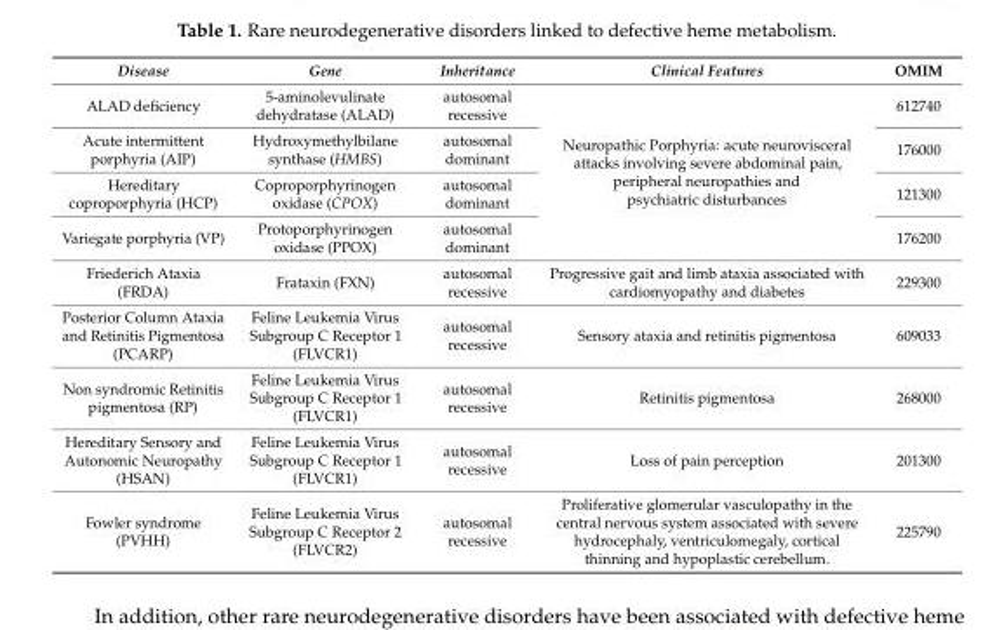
<table><thead><tr><td>Disease</td><td>Gene</td><td>Inheritance</td><td>Clinical Features</td><td>OMIM</td></tr></thead><tbody><tr><td>ALAD deficiency</td><td>5-aminolevulinate dehydratase (ALAD)</td><td>autosomal recessive</td><td rowspan="4">Neuropathic Porphyria: acute neurovisceral attacks involving severe abdominal pain, peripheral neuropathies and psychiatric disturbances</td><td>612740</td></tr><tr><td>Acute intermittent porphyria (AIP)</td><td>Hydroxymethylbilane synthase (HMBS)</td><td>autosomal dominant</td><td>176000</td></tr><tr><td>Hereditary coproporphyria (HCP)</td><td>Coproporphyrinogen oxidase (CPOX)</td><td>autosomal dominant</td><td>121300</td></tr><tr><td>Variegate porphyria (VP)</td><td>Protoporphyrinogen oxidase (PPOX)</td><td>autosomal dominant</td><td>176200</td></tr><tr><td>Friederich Ataxia (FRDA)</td><td>Frataxin (FXN)</td><td>autosomal recessive</td><td>Progressive gait and limb ataxia associated with cardiomyopathy and diabetes</td><td>229300</td></tr><tr><td>Posterior Column Ataxia and Retinitis Pigmentosa (PCARP)</td><td>Feline Leukemia Virus Subgroup C Receptor 1 (FLVCR1)</td><td>autosomal recessive</td><td>Sensory ataxia and retinitis pigmentosa</td><td>609033</td></tr><tr><td>Non syndromic Retinitis pigmentosa (RP)</td><td>Feline Leukemia Virus Subgroup C Receptor 1 (FLVCR1)</td><td>autosomal recessive</td><td>Retinitis pigmentosa</td><td>268000</td></tr><tr><td>Hereditary Sensory and Autonomic Neuropathy (HSAN)</td><td>Feline Leukemia Virus Subgroup C Receptor 1 (FLVCR1)</td><td>autosomal recessive</td><td>Loss of pain perception</td><td>201300</td></tr><tr><td>Fowler syndrome (PVHH)</td><td>Feline Leukemia Virus Subgroup C Receptor 2 (FLVCR2)</td><td>autosomal recessive</td><td>Proliferative glomerular vasculopathy in the central nervous system associated with severe hydrocephaly, ventriculomegaly, cortical thinning and hypoplastic cerebellum.</td><td>225790</td></tr></tbody></table>